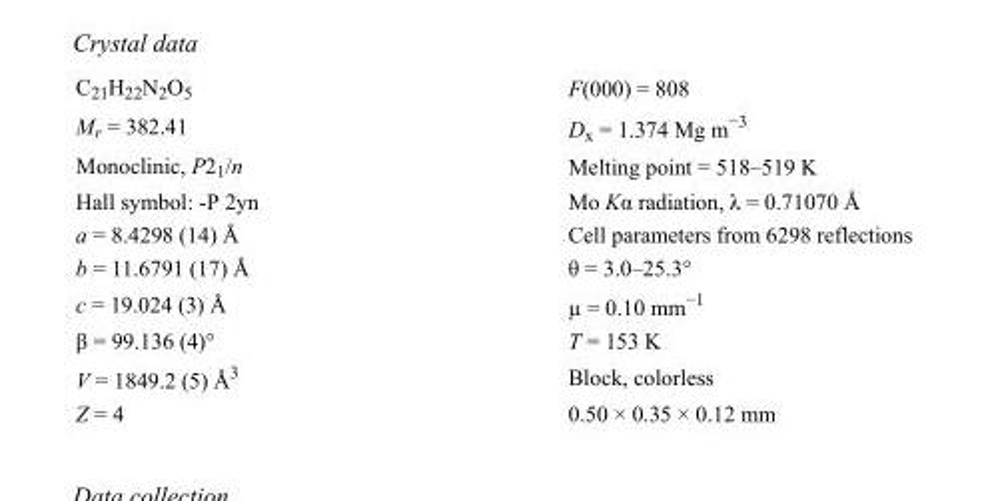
<table><tbody><tr><td>C<sub>21</sub>H<sub>22</sub>N<sub>2</sub>O<sub>5</sub></td><td>F(000) = 808</td></tr><tr><td>M<sub>r</sub> = 382.41</td><td>D<sub>x</sub> = 1.374 Mg m<sup>−3</sup></td></tr><tr><td>Monoclinic, P2<sub>1</sub>/n</td><td>Melting point = 518–519 K</td></tr><tr><td>Hall symbol: -P 2yn</td><td>Mo Kα radiation, λ = 0.71070 Å</td></tr><tr><td>a = 8.4298 (14) Å</td><td>Cell parameters from 6298 reflections</td></tr><tr><td>b = 11.6791 (17) Å</td><td>θ = 3.0–25.3°</td></tr><tr><td>c = 19.024 (3) Å</td><td>µ = 0.10 mm<sup>−1</sup></td></tr><tr><td>β = 99.136 (4)°</td><td>T = 153 K</td></tr><tr><td>V = 1849.2 (5) Å<sup>3</sup></td><td>Block, colorless</td></tr><tr><td>Z = 4</td><td>0.50 × 0.35 × 0.12 mm</td></tr></tbody></table>